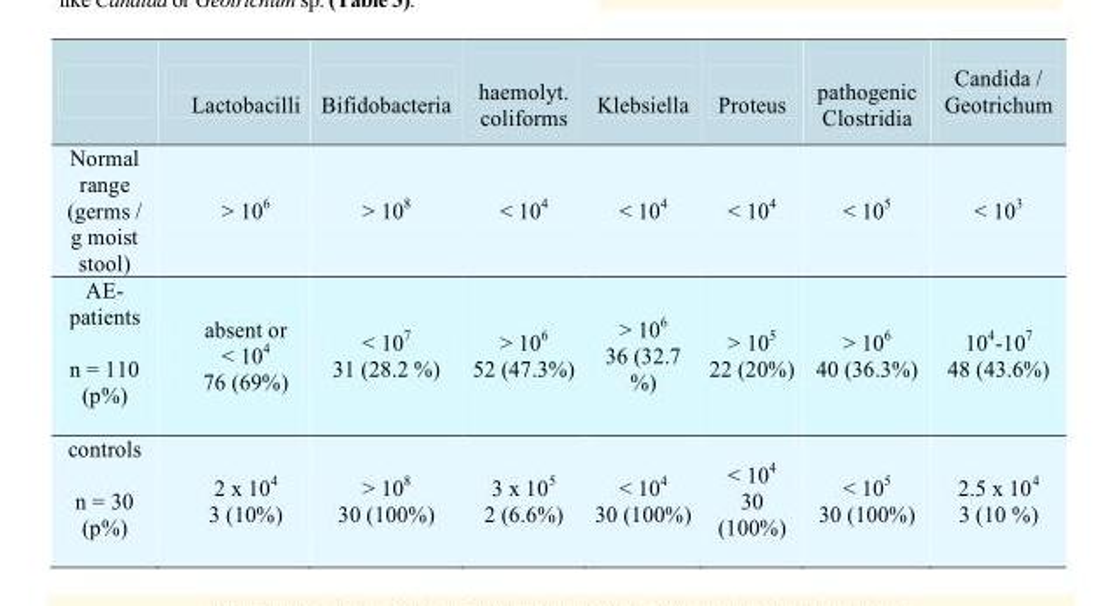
<table><thead><tr><td></td><td>Lactobacilli</td><td>Bifidobacteria</td><td>haemolyt. coliforms</td><td>Klebsiella</td><td>Proteus</td><td>pathogenic Clostridia</td><td>Candida / Geotrichum</td></tr></thead><tbody><tr><td>Normal range (germs / g moist stool)</td><td>&gt; 10<sup>6</sup></td><td>&gt; 10<sup>8</sup></td><td>&lt; 10<sup>4</sup></td><td>&lt; 10<sup>4</sup></td><td>&lt; 10<sup>4</sup></td><td>&lt; 10<sup>5</sup></td><td>&lt; 10<sup>3</sup></td></tr><tr><td>AE- patients n = 110 (p%)</td><td>absent or &lt; 104 76 (69%)</td><td>&lt; 107 31 (28.2 %)</td><td>&gt; 106 52 (47.3%)</td><td>&gt; 106 36 (32.7 %)</td><td>&gt; 105 22 (20%)</td><td>&gt; 106 40 (36.3%)</td><td>104-107 48 (43.6%)</td></tr><tr><td>controls n = 30 (p%)</td><td>2 x 104 3 (10%)</td><td>&gt; 108 30 (100%)</td><td>3 x 105 2 (6.6%)</td><td>&lt; 104 30 (100%)</td><td>&lt; 104 30 (100%)</td><td>&lt; 105 30 (100%)</td><td>2.5 x 104 3 (10 %)</td></tr></tbody></table>